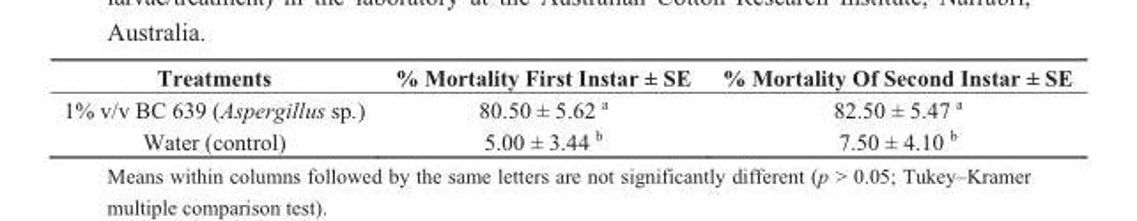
<table><thead><tr><td>Treatments</td><td>% Mortality First Instar ± SE</td><td>% Mortality Of Second Instar ± SE</td></tr></thead><tbody><tr><td>1% v/v BC 639 (Aspergillus sp.)</td><td>80.50 ± 5.62 <sup>a</sup></td><td>82.50 ± 5.47 <sup>a</sup></td></tr><tr><td>Water (control)</td><td>5.00 ± 3.44 <sup>b</sup></td><td>7.50 ± 4.10 <sup>b</sup></td></tr></tbody></table>